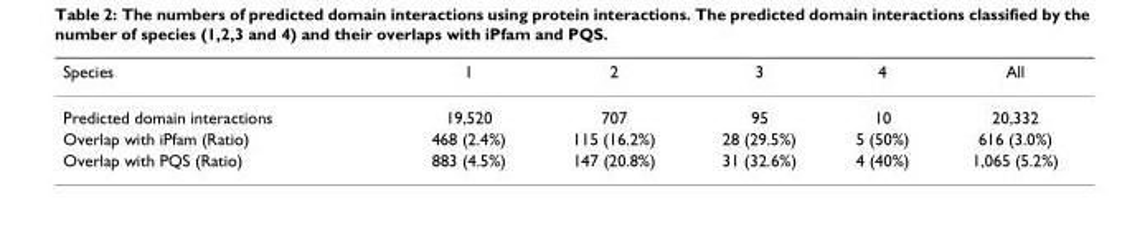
<table><thead><tr><td>Species</td><td>1</td><td>2</td><td>3</td><td>4</td><td>All</td></tr></thead><tbody><tr><td>Predicted domain interactions</td><td>19,520</td><td>707</td><td>95</td><td>10</td><td>20,332</td></tr><tr><td>Overlap with iPfam (Ratio)</td><td>468 (2.4%)</td><td>115 (16.2%)</td><td>28 (29.5%)</td><td>5 (50%)</td><td>616 (3.0%)</td></tr><tr><td>Overlap with PQS (Ratio)</td><td>883 (4.5%)</td><td>147 (20.8%)</td><td>31 (32.6%)</td><td>4 (40%)</td><td>1,065 (5.2%)</td></tr></tbody></table>